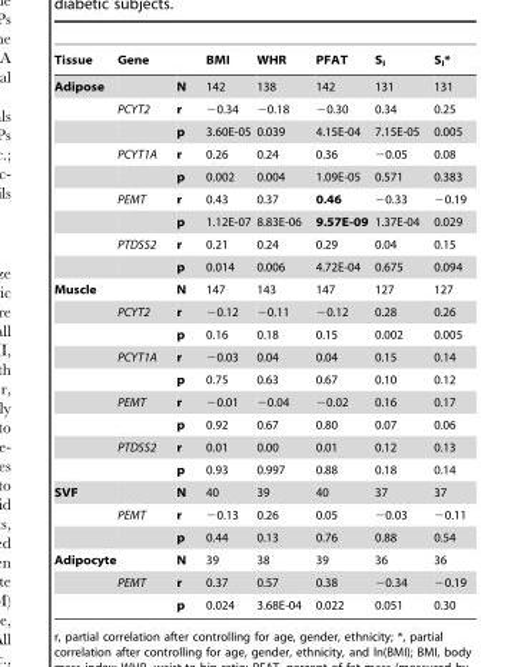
<table><thead><tr><td>Tissue</td><td>Gene</td><td></td><td>BMI</td><td>WHR</td><td>PFAT</td><td>S<sub>I</sub></td><td>S<sub>I</sub>*</td></tr></thead><tbody><tr><td rowspan="9">Adipose</td><td></td><td>N</td><td>142</td><td>138</td><td>142</td><td>131</td><td>131</td></tr><tr><td>PCYT2</td><td>r</td><td>−0.34</td><td>−0.18</td><td>−0.30</td><td>0.34</td><td>0.25</td></tr><tr><td></td><td>p</td><td>3.60E-05</td><td>0.039</td><td>4.15E-04</td><td>7.15E-05</td><td>0.005</td></tr><tr><td>PCYT1A</td><td>r</td><td>0.26</td><td>0.24</td><td>0.36</td><td>−0.05</td><td>0.08</td></tr><tr><td></td><td>p</td><td>0.002</td><td>0.004</td><td>1.09E-05</td><td>0.571</td><td>0.383</td></tr><tr><td>PEMT</td><td>r</td><td>0.43</td><td>0.37</td><td>0.46</td><td>−0.33</td><td>−0.19</td></tr><tr><td></td><td>p</td><td>1.12E-07</td><td>8.83E-06</td><td>9.57E-09</td><td>1.37E-04</td><td>0.029</td></tr><tr><td>PTDSS2</td><td>r</td><td>0.21</td><td>0.24</td><td>0.29</td><td>0.04</td><td>0.15</td></tr><tr><td></td><td>p</td><td>0.014</td><td>0.006</td><td>4.72E-04</td><td>0.675</td><td>0.094</td></tr><tr><td rowspan="9">Muscle</td><td></td><td>N</td><td>147</td><td>143</td><td>147</td><td>127</td><td>127</td></tr><tr><td>PCYT2</td><td>r</td><td>−0.12</td><td>−0.11</td><td>−0.12</td><td>0.28</td><td>0.26</td></tr><tr><td></td><td>p</td><td>0.16</td><td>0.18</td><td>0.15</td><td>0.002</td><td>0.005</td></tr><tr><td>PCYT1A</td><td>r</td><td>−0.03</td><td>0.04</td><td>0.04</td><td>0.15</td><td>0.14</td></tr><tr><td></td><td>p</td><td>0.75</td><td>0.63</td><td>0.67</td><td>0.10</td><td>0.12</td></tr><tr><td>PEMT</td><td>r</td><td>−0.01</td><td>−0.04</td><td>−0.02</td><td>0.16</td><td>0.17</td></tr><tr><td></td><td>p</td><td>0.92</td><td>0.67</td><td>0.80</td><td>0.07</td><td>0.06</td></tr><tr><td>PTDSS2</td><td>r</td><td>0.01</td><td>0.00</td><td>0.01</td><td>0.12</td><td>0.13</td></tr><tr><td></td><td>p</td><td>0.93</td><td>0.997</td><td>0.88</td><td>0.18</td><td>0.14</td></tr><tr><td rowspan="3">SVF</td><td></td><td>N</td><td>40</td><td>39</td><td>40</td><td>37</td><td>37</td></tr><tr><td>PEMT</td><td>r</td><td>−0.13</td><td>0.26</td><td>0.05</td><td>−0.03</td><td>−0.11</td></tr><tr><td></td><td>p</td><td>0.44</td><td>0.13</td><td>0.76</td><td>0.88</td><td>0.54</td></tr><tr><td rowspan="3">Adipocyte</td><td></td><td>N</td><td>39</td><td>38</td><td>39</td><td>36</td><td>36</td></tr><tr><td>PEMT</td><td>r</td><td>0.37</td><td>0.57</td><td>0.38</td><td>−0.34</td><td>−0.19</td></tr><tr><td></td><td>p</td><td>0.024</td><td>3.68E-04</td><td>0.022</td><td>0.051</td><td>0.30</td></tr></tbody></table>